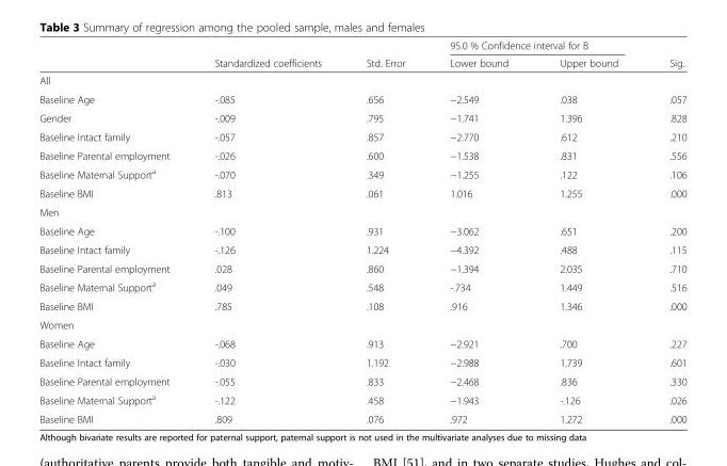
<table><thead><tr><td rowspan="2"></td><td rowspan="2">Standardized coefficients</td><td rowspan="2">Std. Error</td><td colspan="2">95.0 % Confidence interval for B</td><td rowspan="2">Sig.</td></tr><tr><td>Lower bound</td><td>Upper bound</td></tr></thead><tbody><tr><td colspan="6">All</td></tr><tr><td>Baseline Age</td><td>-.085</td><td>.656</td><td>−2.549</td><td>.038</td><td>.057</td></tr><tr><td>Gender</td><td>-.009</td><td>.795</td><td>−1.741</td><td>1.396</td><td>.828</td></tr><tr><td>Baseline Intact family</td><td>-.057</td><td>.857</td><td>−2.770</td><td>.612</td><td>.210</td></tr><tr><td>Baseline Parental employment</td><td>-.026</td><td>.600</td><td>−1.538</td><td>.831</td><td>.556</td></tr><tr><td>Baseline Maternal Support<sup>a</sup></td><td>-.070</td><td>.349</td><td>−1.255</td><td>.122</td><td>.106</td></tr><tr><td>Baseline BMI</td><td>.813</td><td>.061</td><td>1.016</td><td>1.255</td><td>.000</td></tr><tr><td colspan="6">Men</td></tr><tr><td>Baseline Age</td><td>-.100</td><td>.931</td><td>−3.062</td><td>.651</td><td>.200</td></tr><tr><td>Baseline Intact family</td><td>-.126</td><td>1.224</td><td>−4.392</td><td>.488</td><td>.115</td></tr><tr><td>Baseline Parental employment</td><td>.028</td><td>.860</td><td>−1.394</td><td>2.035</td><td>.710</td></tr><tr><td>Baseline Maternal Support<sup>a</sup></td><td>.049</td><td>.548</td><td>-.734</td><td>1.449</td><td>.516</td></tr><tr><td>Baseline BMI</td><td>.785</td><td>.108</td><td>.916</td><td>1.346</td><td>.000</td></tr><tr><td colspan="6">Women</td></tr><tr><td>Baseline Age</td><td>-.068</td><td>.913</td><td>−2.921</td><td>.700</td><td>.227</td></tr><tr><td>Baseline Intact family</td><td>-.030</td><td>1.192</td><td>−2.988</td><td>1.739</td><td>.601</td></tr><tr><td>Baseline Parental employment</td><td>-.055</td><td>.833</td><td>−2.468</td><td>.836</td><td>.330</td></tr><tr><td>Baseline Maternal Support<sup>a</sup></td><td>-.122</td><td>.458</td><td>−1.943</td><td>-.126</td><td>.026</td></tr><tr><td>Baseline BMI</td><td>.809</td><td>.076</td><td>.972</td><td>1.272</td><td>.000</td></tr></tbody></table>